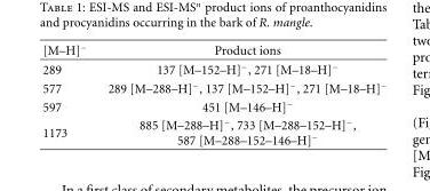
<table><thead><tr><td>[M–H]<sup>−</sup></td><td>Product ions</td></tr></thead><tbody><tr><td>289</td><td>137 [M–152–H]<sup>−</sup>, 271 [M–18–H]<sup>−</sup></td></tr><tr><td>577</td><td>289 [M–288–H]<sup>−</sup>, 137 [M–152–H]<sup>−</sup>, 271 [M–18–H]<sup>−</sup></td></tr><tr><td>597</td><td>451 [M–146–H]<sup>−</sup></td></tr><tr><td>1173</td><td>885 [M–288–H]<sup>−</sup>, 733 [M–288–152–H]<sup>−</sup>, 587 [M–288–152–146–H]<sup>−</sup></td></tr></tbody></table>